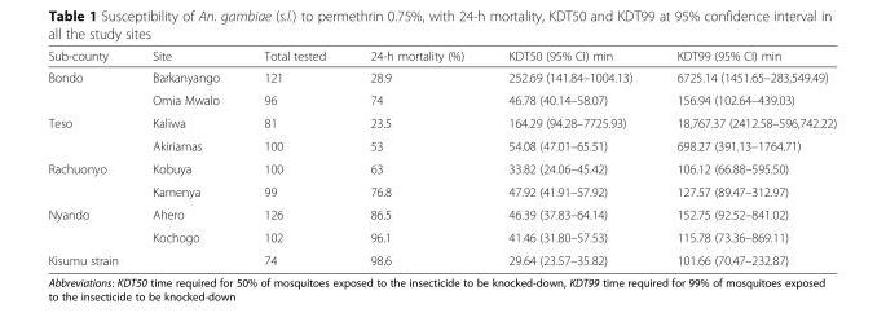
<table><thead><tr><td>Sub-county</td><td>Site</td><td>Total tested</td><td>24-h mortality (%)</td><td>KDT50 (95% CI) min</td><td>KDT99 (95% CI) min</td></tr></thead><tbody><tr><td rowspan="2">Bondo</td><td>Barkanyango</td><td>121</td><td>28.9</td><td>252.69 (141.84–1004.13)</td><td>6725.14 (1451.65–283,549.49)</td></tr><tr><td>Omia Mwalo</td><td>96</td><td>74</td><td>46.78 (40.14–58.07)</td><td>156.94 (102.64–439.03)</td></tr><tr><td rowspan="2">Teso</td><td>Kaliwa</td><td>81</td><td>23.5</td><td>164.29 (94.28–7725.93)</td><td>18,767.37 (2412.58–596,742.22)</td></tr><tr><td>Akiriamas</td><td>100</td><td>53</td><td>54.08 (47.01–65.51)</td><td>698.27 (391.13–1764.71)</td></tr><tr><td rowspan="2">Rachuonyo</td><td>Kobuya</td><td>100</td><td>63</td><td>33.82 (24.06–45.42)</td><td>106.12 (66.88–595.50)</td></tr><tr><td>Kamenya</td><td>99</td><td>76.8</td><td>47.92 (41.91–57.92)</td><td>127.57 (89.47–312.97)</td></tr><tr><td rowspan="2">Nyando</td><td>Ahero</td><td>126</td><td>86.5</td><td>46.39 (37.83–64.14)</td><td>152.75 (92.52–841.02)</td></tr><tr><td>Kochogo</td><td>102</td><td>96.1</td><td>41.46 (31.80–57.53)</td><td>115.78 (73.36–869.11)</td></tr><tr><td colspan="2">Kisumu strain</td><td>74</td><td>98.6</td><td>29.64 (23.57–35.82)</td><td>101.66 (70.47–232.87)</td></tr></tbody></table>